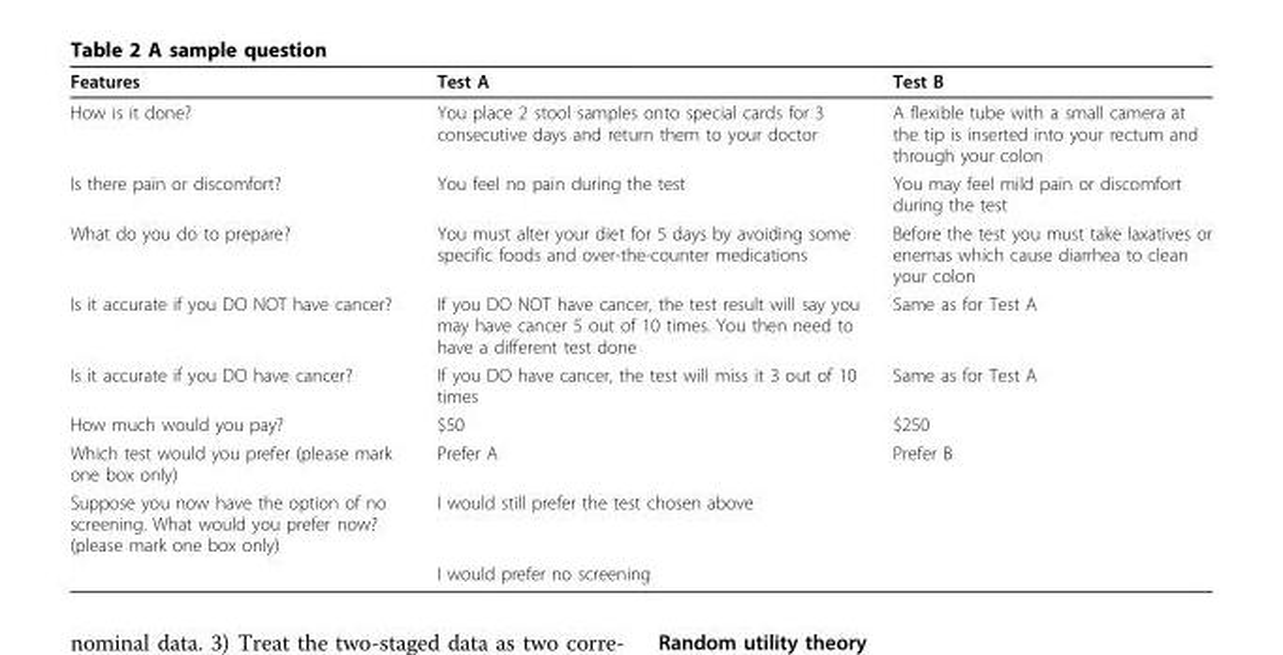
<table><thead><tr><td>Features</td><td>Test A</td><td>Test B</td></tr></thead><tbody><tr><td>How is it done?</td><td>You place 2 stool samples onto special cards for 3 consecutive days and return them to your doctor</td><td>A flexible tube with a small camera at the tip is inserted into your rectum and through your colon</td></tr><tr><td>Is there pain or discomfort?</td><td>You feel no pain during the test</td><td>You may feel mild pain or discomfort during the test</td></tr><tr><td>What do you do to prepare?</td><td>You must alter your diet for 5 days by avoiding some specific foods and over-the-counter medications</td><td>Before the test you must take laxatives or enemas which cause diarrhea to clean your colon</td></tr><tr><td>Is it accurate if you DO NOT have cancer?</td><td>If you DO NOT have cancer, the test result will say you may have cancer 5 out of 10 times. You then need to have a different test done</td><td>Same as for Test A</td></tr><tr><td>Is it accurate if you DO have cancer?</td><td>If you DO have cancer, the test will miss it 3 out of 10 times</td><td>Same as for Test A</td></tr><tr><td>How much would you pay?</td><td>$50</td><td>$250</td></tr><tr><td>Which test would you prefer (please mark one box only)</td><td>Prefer A</td><td>Prefer B</td></tr><tr><td rowspan="2">Suppose you now have the option of no screening. What would you prefer now? (please mark one box only)</td><td>I would still prefer the test chosen above</td><td></td></tr><tr><td colspan="2">I would prefer no screening</td></tr></tbody></table>